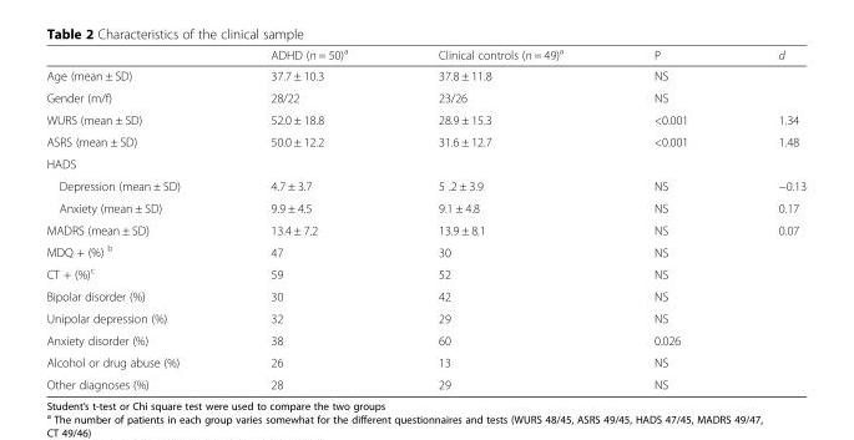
<table><thead><tr><td></td><td>ADHD (n = 50)<sup>a</sup></td><td>Clinical controls (n = 49)<sup>a</sup></td><td>P</td><td>d</td></tr></thead><tbody><tr><td>Age (mean ± SD)</td><td>37.7 ± 10.3</td><td>37.8 ± 11.8</td><td>NS</td><td></td></tr><tr><td>Gender (m/f)</td><td>28/22</td><td>23/26</td><td>NS</td><td></td></tr><tr><td>WURS (mean ± SD)</td><td>52.0 ± 18.8</td><td>28.9 ± 15.3</td><td>&lt;0.001</td><td>1.34</td></tr><tr><td>ASRS (mean ± SD)</td><td>50.0 ± 12.2</td><td>31.6 ± 12.7</td><td>&lt;0.001</td><td>1.48</td></tr><tr><td colspan="5">HADS</td></tr><tr><td>Depression (mean ± SD)</td><td>4.7 ± 3.7</td><td>5 .2 ± 3.9</td><td>NS</td><td>−0.13</td></tr><tr><td>Anxiety (mean ± SD)</td><td>9.9 ± 4.5</td><td>9.1 ± 4.8</td><td>NS</td><td>0.17</td></tr><tr><td>MADRS (mean ± SD)</td><td>13.4 ± 7.2</td><td>13.9 ± 8.1</td><td>NS</td><td>0.07</td></tr><tr><td>MDQ + (%) <sup>b</sup></td><td>47</td><td>30</td><td>NS</td><td></td></tr><tr><td>CT + (%)<sup>c</sup></td><td>59</td><td>52</td><td>NS</td><td></td></tr><tr><td>Bipolar disorder (%)</td><td>30</td><td>42</td><td>NS</td><td></td></tr><tr><td>Unipolar depression (%)</td><td>32</td><td>29</td><td>NS</td><td></td></tr><tr><td>Anxiety disorder (%)</td><td>38</td><td>60</td><td>0.026</td><td></td></tr><tr><td>Alcohol or drug abuse (%)</td><td>26</td><td>13</td><td>NS</td><td></td></tr><tr><td>Other diagnoses (%)</td><td>28</td><td>29</td><td>NS</td><td></td></tr></tbody></table>